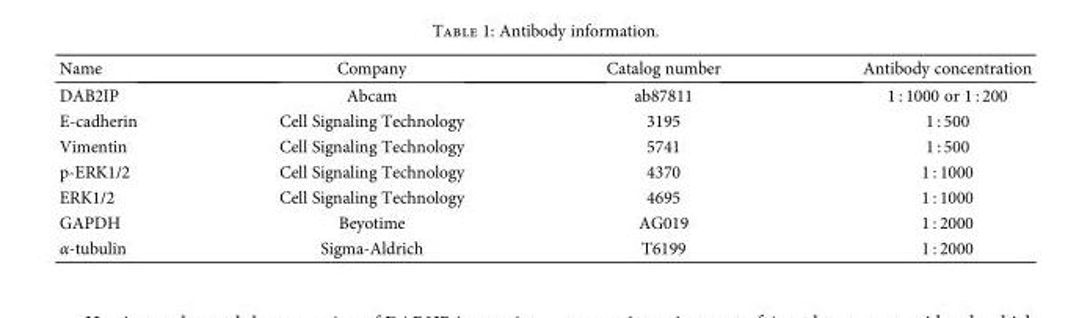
<table><thead><tr><td>Name</td><td>Company</td><td>Catalog number</td><td>Antibody concentration</td></tr></thead><tbody><tr><td>DAB2IP</td><td>Abcam</td><td>ab87811</td><td>1 : 1000 or 1 : 200</td></tr><tr><td>E-cadherin</td><td>Cell Signaling Technology</td><td>3195</td><td>1 : 500</td></tr><tr><td>Vimentin</td><td>Cell Signaling Technology</td><td>5741</td><td>1 : 500</td></tr><tr><td>p-ERK1/2</td><td>Cell Signaling Technology</td><td>4370</td><td>1 : 1000</td></tr><tr><td>ERK1/2</td><td>Cell Signaling Technology</td><td>4695</td><td>1 : 1000</td></tr><tr><td>GAPDH</td><td>Beyotime</td><td>AG019</td><td>1 : 2000</td></tr><tr><td>α-tubulin</td><td>Sigma-Aldrich</td><td>T6199</td><td>1 : 2000</td></tr></tbody></table>